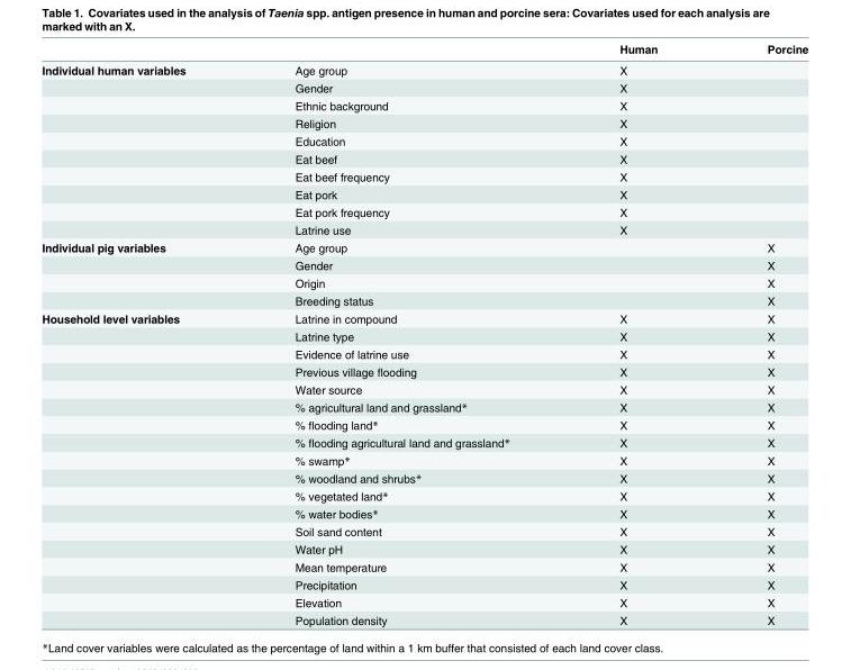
<table><thead><tr><td></td><td></td><td>Human</td><td>Porcine</td></tr></thead><tbody><tr><td rowspan="10">Individual human variables</td><td>Age group</td><td>X</td><td></td></tr><tr><td>Gender</td><td>X</td><td></td></tr><tr><td>Ethnic background</td><td>X</td><td></td></tr><tr><td>Religion</td><td>X</td><td></td></tr><tr><td>Education</td><td>X</td><td></td></tr><tr><td>Eat beef</td><td>X</td><td></td></tr><tr><td>Eat beef frequency</td><td>X</td><td></td></tr><tr><td>Eat pork</td><td>X</td><td></td></tr><tr><td>Eat pork frequency</td><td>X</td><td></td></tr><tr><td>Latrine use</td><td>X</td><td></td></tr><tr><td rowspan="4">Individual pig variables</td><td>Age group</td><td></td><td>X</td></tr><tr><td>Gender</td><td></td><td>X</td></tr><tr><td>Origin</td><td></td><td>X</td></tr><tr><td>Breeding status</td><td></td><td>X</td></tr><tr><td rowspan="18">Household level variables</td><td>Latrine in compound</td><td>X</td><td>X</td></tr><tr><td>Latrine type</td><td>X</td><td>X</td></tr><tr><td>Evidence of latrine use</td><td>X</td><td>X</td></tr><tr><td>Previous village flooding</td><td>X</td><td>X</td></tr><tr><td>Water source</td><td>X</td><td>X</td></tr><tr><td>% agricultural land and grassland*</td><td>X</td><td>X</td></tr><tr><td>% flooding land*</td><td>X</td><td>X</td></tr><tr><td>% flooding agricultural land and grassland*</td><td>X</td><td>X</td></tr><tr><td>% swamp*</td><td>X</td><td>X</td></tr><tr><td>% woodland and shrubs*</td><td>X</td><td>X</td></tr><tr><td>% vegetated land*</td><td>X</td><td>X</td></tr><tr><td>% water bodies*</td><td>X</td><td>X</td></tr><tr><td>Soil sand content</td><td>X</td><td>X</td></tr><tr><td>Water pH</td><td>X</td><td>X</td></tr><tr><td>Mean temperature</td><td>X</td><td>X</td></tr><tr><td>Precipitation</td><td>X</td><td>X</td></tr><tr><td>Elevation</td><td>X</td><td>X</td></tr><tr><td>Population density</td><td>X</td><td>X</td></tr></tbody></table>